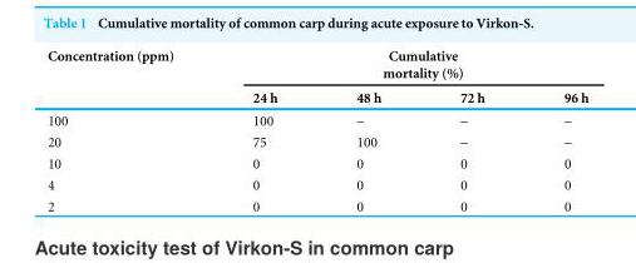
<table><thead><tr><td rowspan="2">Concentration (ppm)</td><td colspan="4">Cumulative mortality (%)</td></tr><tr><td>24 h</td><td>48 h</td><td>72 h</td><td>96 h</td></tr></thead><tbody><tr><td>100</td><td>100</td><td>–</td><td>–</td><td>–</td></tr><tr><td>20</td><td>75</td><td>100</td><td>–</td><td>–</td></tr><tr><td>10</td><td>0</td><td>0</td><td>0</td><td>0</td></tr><tr><td>4</td><td>0</td><td>0</td><td>0</td><td>0</td></tr><tr><td>2</td><td>0</td><td>0</td><td>0</td><td>0</td></tr></tbody></table>